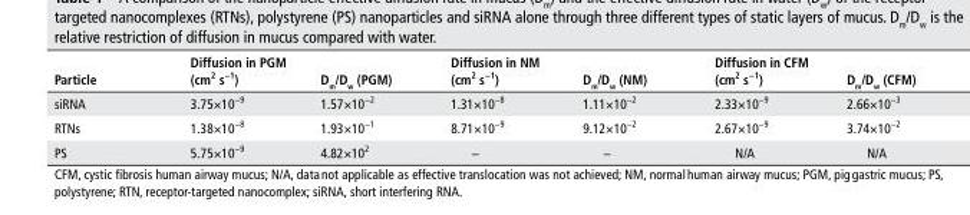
<table><thead><tr><td>Particle</td><td>diffusion in PGM (cm<sup>2</sup> s<sup>−1</sup>)</td><td>d<sub>m</sub>/d<sub>w</sub> (PGM)</td><td>diffusion in nM (cm<sup>2</sup> s<sup>−1</sup>)</td><td>d<sub>m</sub>/d<sub>w</sub> (nM)</td><td>diffusion in CFM (cm<sup>2</sup> s<sup>−1</sup>)</td><td>d<sub>m</sub>/d<sub>w</sub> (CFM)</td></tr></thead><tbody><tr><td>siRNA</td><td>3.75×10<sup>−9</sup></td><td>1.57×10<sup>−2</sup></td><td>1.31×10<sup>−8</sup></td><td>1.11×10<sup>−2</sup></td><td>2.33×10<sup>−9</sup></td><td>2.66×10<sup>−3</sup></td></tr><tr><td>RTNs</td><td>1.38×10<sup>−8</sup></td><td>1.93×10<sup>−1</sup></td><td>8.71×10<sup>−9</sup></td><td>9.12×10<sup>−2</sup></td><td>2.67×10<sup>−9</sup></td><td>3.74×10<sup>−2</sup></td></tr><tr><td>PS</td><td>5.75×10<sup>−9</sup></td><td>4.82×10<sup>2</sup></td><td>−</td><td>−</td><td>N/A</td><td>N/A</td></tr></tbody></table>